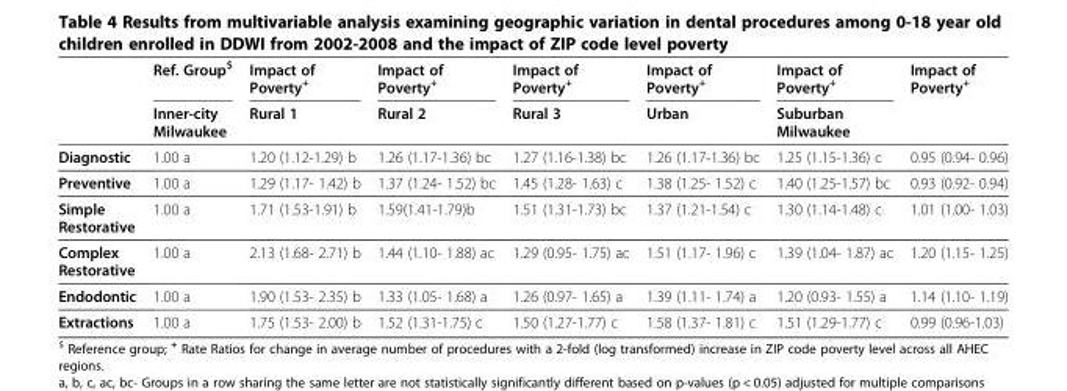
<table><thead><tr><td rowspan="2"></td><td rowspan="2">Ref. Group<sup>$</sup> Inner-city Milwaukee</td><td rowspan="2">Impact of Poverty<sup>+</sup> Rural 1</td><td rowspan="2">Impact of Poverty<sup>+</sup> Rural 2</td><td rowspan="2">Impact of Poverty<sup>+</sup> Rural 3</td><td rowspan="2">Impact of Poverty<sup>+</sup> Urban</td><td rowspan="2">Impact of Poverty<sup>+</sup> Suburban Milwaukee</td><td rowspan="2">Impact of Poverty<sup>+</sup></td></tr><tr></tr></thead><tbody><tr><td>Diagnostic</td><td>1.00 a</td><td>1.20 (1.12-1.29) b</td><td>1.26 (1.17-1.36) bc</td><td>1.27 (1.16-1.38) bc</td><td>1.26 (1.17-1.36) bc</td><td>1.25 (1.15-1.36) c</td><td>0.95 (0.94- 0.96)</td></tr><tr><td>Preventive</td><td>1.00 a</td><td>1.29 (1.17- 1.42) b</td><td>1.37 (1.24- 1.52) bc</td><td>1.45 (1.28- 1.63) c</td><td>1.38 (1.25- 1.52) c</td><td>1.40 (1.25-1.57) bc</td><td>0.93 (0.92- 0.94)</td></tr><tr><td>Simple Restorative</td><td>1.00 a</td><td>1.71 (1.53-1.91) b</td><td>1.59(1.41-1.79)b</td><td>1.51 (1.31-1.73) bc</td><td>1.37 (1.21-1.54) c</td><td>1.30 (1.14-1.48) c</td><td>1.01 (1.00- 1.03)</td></tr><tr><td>Complex Restorative</td><td>1.00 a</td><td>2.13 (1.68- 2.71) b</td><td>1.44 (1.10- 1.88) ac</td><td>1.29 (0.95- 1.75) ac</td><td>1.51 (1.17- 1.96) c</td><td>1.39 (1.04- 1.87) ac</td><td>1.20 (1.15- 1.25)</td></tr><tr><td>Endodontic</td><td>1.00 a</td><td>1.90 (1.53- 2.35) b</td><td>1.33 (1.05- 1.68) a</td><td>1.26 (0.97- 1.65) a</td><td>1.39 (1.11- 1.74) a</td><td>1.20 (0.93- 1.55) a</td><td>1.14 (1.10- 1.19)</td></tr><tr><td>Extractions</td><td>1.00 a</td><td>1.75 (1.53- 2.00) b</td><td>1.52 (1.31-1.75) c</td><td>1.50 (1.27-1.77) c</td><td>1.58 (1.37- 1.81) c</td><td>1.51 (1.29-1.77) c</td><td>0.99 (0.96-1.03)</td></tr></tbody></table>